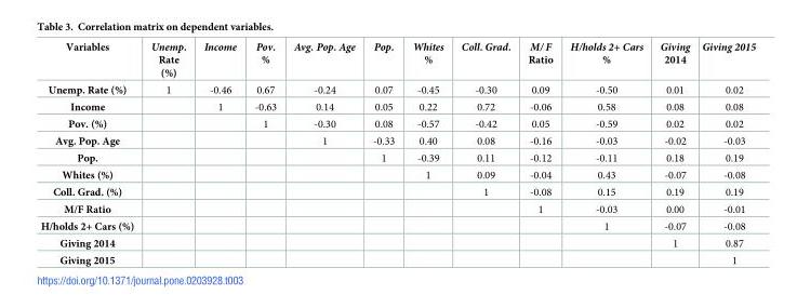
<table><thead><tr><td>Variables</td><td>Unemp. Rate (%)</td><td>Income</td><td>Pov. %</td><td>Avg. Pop. Age</td><td>Pop.</td><td>Whites %</td><td>Coll. Grad.</td><td>M/ F Ratio</td><td>H/holds 2+ Cars %</td><td>Giving 2014</td><td>Giving 2015</td></tr></thead><tbody><tr><td>Unemp. Rate (%)</td><td>1</td><td>-0.46</td><td>0.67</td><td>-0.24</td><td>0.07</td><td>-0.45</td><td>-0.30</td><td>0.09</td><td>-0.50</td><td>0.01</td><td>0.02</td></tr><tr><td>Income</td><td></td><td>1</td><td>-0.63</td><td>0.14</td><td>0.05</td><td>0.22</td><td>0.72</td><td>-0.06</td><td>0.58</td><td>0.08</td><td>0.08</td></tr><tr><td>Pov. (%)</td><td></td><td></td><td>1</td><td>-0.30</td><td>0.08</td><td>-0.57</td><td>-0.42</td><td>0.05</td><td>-0.59</td><td>0.02</td><td>0.02</td></tr><tr><td>Avg. Pop. Age</td><td></td><td></td><td></td><td>1</td><td>-0.33</td><td>0.40</td><td>0.08</td><td>-0.16</td><td>-0.03</td><td>-0.02</td><td>-0.03</td></tr><tr><td>Pop.</td><td></td><td></td><td></td><td></td><td>1</td><td>-0.39</td><td>0.11</td><td>-0.12</td><td>-0.11</td><td>0.18</td><td>0.19</td></tr><tr><td>Whites (%)</td><td></td><td></td><td></td><td></td><td></td><td>1</td><td>0.09</td><td>-0.04</td><td>0.43</td><td>-0.07</td><td>-0.08</td></tr><tr><td>Coll. Grad. (%)</td><td></td><td></td><td></td><td></td><td></td><td></td><td>1</td><td>-0.08</td><td>0.15</td><td>0.19</td><td>0.19</td></tr><tr><td>M/F Ratio</td><td></td><td></td><td></td><td></td><td></td><td></td><td></td><td>1</td><td>-0.03</td><td>0.00</td><td>-0.01</td></tr><tr><td>H/holds 2+ Cars (%)</td><td></td><td></td><td></td><td></td><td></td><td></td><td></td><td></td><td>1</td><td>-0.07</td><td>-0.08</td></tr><tr><td>Giving 2014</td><td></td><td></td><td></td><td></td><td></td><td></td><td></td><td></td><td></td><td>1</td><td>0.87</td></tr><tr><td>Giving 2015</td><td></td><td></td><td></td><td></td><td></td><td></td><td></td><td></td><td></td><td></td><td>1</td></tr></tbody></table>